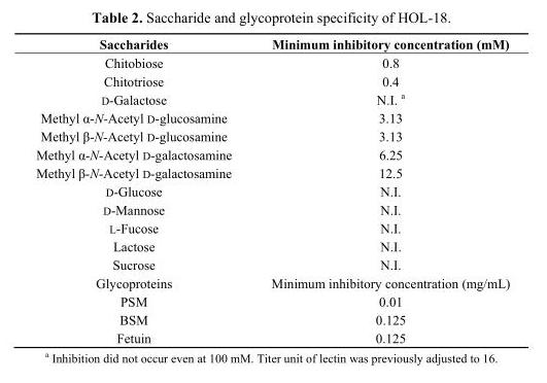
<table><thead><tr><td>Saccharides</td><td>Minimum inhibitory concentration (mM)</td></tr></thead><tbody><tr><td>Chitobiose</td><td>0.8</td></tr><tr><td>Chitotriose</td><td>0.4</td></tr><tr><td>D-Galactose</td><td>N.I. <sup>a</sup></td></tr><tr><td>Methyl α-N-Acetyl D-glucosamine</td><td>3.13</td></tr><tr><td>Methyl β-N-Acetyl D-glucosamine</td><td>3.13</td></tr><tr><td>Methyl α-N-Acetyl D-galactosamine</td><td>6.25</td></tr><tr><td>Methyl β-N-Acetyl D-galactosamine</td><td>12.5</td></tr><tr><td>D-Glucose</td><td>N.I.</td></tr><tr><td>D-Mannose</td><td>N.I.</td></tr><tr><td>L-Fucose</td><td>N.I.</td></tr><tr><td>Lactose</td><td>N.I.</td></tr><tr><td>Sucrose</td><td>N.I.</td></tr><tr><td>Glycoproteins</td><td>Minimum inhibitory concentration (mg/mL)</td></tr><tr><td>PSM</td><td>0.01</td></tr><tr><td>BSM</td><td>0.125</td></tr><tr><td>Fetuin</td><td>0.125</td></tr></tbody></table>